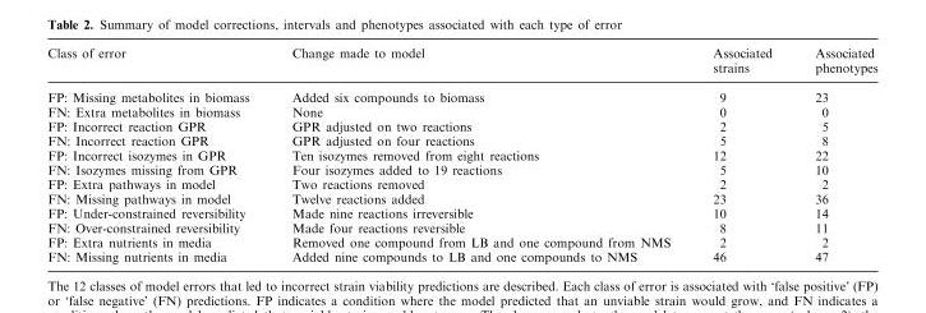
<table><thead><tr><td>Class of error</td><td>Change made to model</td><td>Associated strains</td><td>Associated phenotypes</td></tr></thead><tbody><tr><td>FP: Missing metabolites in biomass</td><td>Added six compounds to biomass</td><td>9</td><td>23</td></tr><tr><td>FN: Extra metabolites in biomass</td><td>None</td><td>0</td><td>0</td></tr><tr><td>FP: Incorrect reaction GPR</td><td>GPR adjusted on two reactions</td><td>2</td><td>5</td></tr><tr><td>FN: Incorrect reaction GPR</td><td>GPR adjusted on four reactions</td><td>5</td><td>8</td></tr><tr><td>FP: Incorrect isozymes in GPR</td><td>Ten isozymes removed from eight reactions</td><td>12</td><td>22</td></tr><tr><td>FN: Isozymes missing from GPR</td><td>Four isozymes added to 19 reactions</td><td>5</td><td>10</td></tr><tr><td>FP: Extra pathways in model</td><td>Two reactions removed</td><td>2</td><td>2</td></tr><tr><td>FN: Missing pathways in model</td><td>Twelve reactions added</td><td>23</td><td>36</td></tr><tr><td>FP: Under-constrained reversibility</td><td>Made nine reactions irreversible</td><td>10</td><td>14</td></tr><tr><td>FN: Over-constrained reversibility</td><td>Made four reactions reversible</td><td>8</td><td>11</td></tr><tr><td>FP: Extra nutrients in media</td><td>Removed one compound from LB and one compound from NMS</td><td>2</td><td>2</td></tr><tr><td>FN: Missing nutrients in media</td><td>Added nine compounds to LB and one compounds to NMS</td><td>46</td><td>47</td></tr></tbody></table>